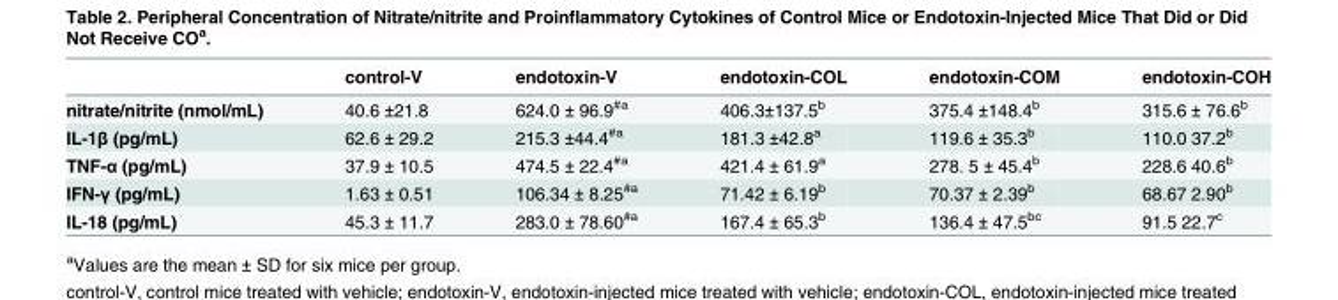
<table><thead><tr><td></td><td>control-V</td><td>endotoxin-V</td><td>endotoxin-COL</td><td>endotoxin-COM</td><td>endotoxin-COH</td></tr></thead><tbody><tr><td>nitrate/nitrite (nmol/mL)</td><td>40.6 ±21.8</td><td>624.0 ± 96.9<sup>#a</sup></td><td>406.3±137.5<sup>b</sup></td><td>375.4 ±148.4<sup>b</sup></td><td>315.6 ± 76.6<sup>b</sup></td></tr><tr><td>IL-1β (pg/mL)</td><td>62.6 ± 29.2</td><td>215.3 ±44.4<sup>#a</sup></td><td>181.3 ±42.8<sup>a</sup></td><td>119.6 ± 35.3<sup>b</sup></td><td>110.0 37.2<sup>b</sup></td></tr><tr><td>TNF-α (pg/mL)</td><td>37.9 ± 10.5</td><td>474.5 ± 22.4<sup>#a</sup></td><td>421.4 ± 61.9<sup>a</sup></td><td>278. 5 ± 45.4<sup>b</sup></td><td>228.6 40.6<sup>b</sup></td></tr><tr><td>IFN-γ (pg/mL)</td><td>1.63 ± 0.51</td><td>106.34 ± 8.25<sup>#a</sup></td><td>71.42 ± 6.19<sup>b</sup></td><td>70.37 ± 2.39<sup>b</sup></td><td>68.67 2.90<sup>b</sup></td></tr><tr><td>IL-18 (pg/mL)</td><td>45.3 ± 11.7</td><td>283.0 ± 78.60<sup>#a</sup></td><td>167.4 ± 65.3<sup>b</sup></td><td>136.4 ± 47.5<sup>bc</sup></td><td>91.5 22.7<sup>c</sup></td></tr></tbody></table>